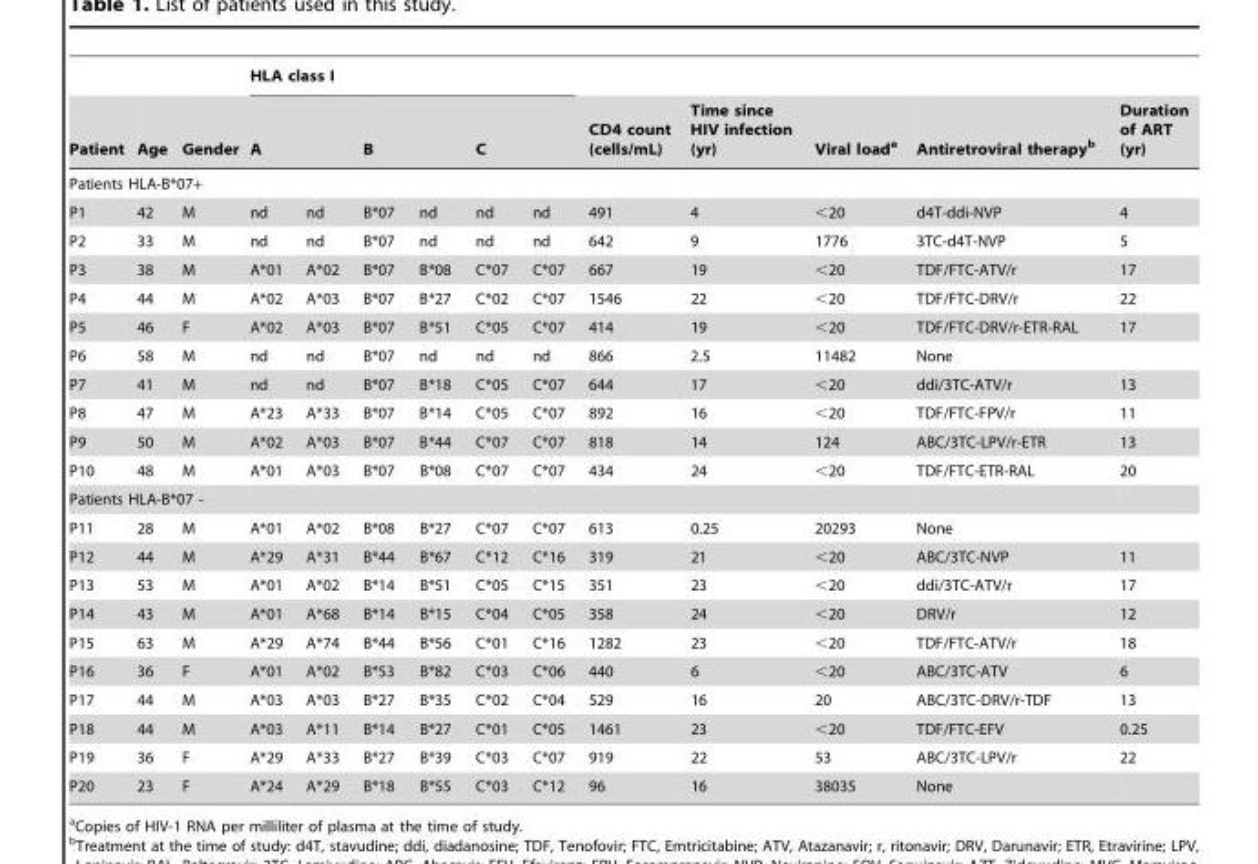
<table><thead><tr><td rowspan="2">Patient</td><td rowspan="2">Age</td><td rowspan="2">Gender</td><td colspan="6">HLA class I</td><td rowspan="3">CD4 count (cells/mL)</td><td rowspan="3">Time since HIV infection (yr)</td><td rowspan="3">Viral load<sup>a</sup></td><td rowspan="3">Antiretroviral therapy<sup>b</sup></td><td rowspan="3">Duration of ART (yr)</td></tr><tr><td colspan="2">A</td><td colspan="2">B</td><td colspan="2">C</td></tr><tr><td colspan="3">Patients HLA-B*07+</td><td></td><td></td><td></td><td></td><td></td><td></td></tr></thead><tbody><tr><td>P1</td><td>42</td><td>M</td><td>nd</td><td>nd</td><td>B*07</td><td>nd</td><td>nd</td><td>nd</td><td>491</td><td>4</td><td>&lt;20</td><td>d4T-ddi-NVP</td><td>4</td></tr><tr><td>P2</td><td>33</td><td>M</td><td>nd</td><td>nd</td><td>B*07</td><td>nd</td><td>nd</td><td>nd</td><td>642</td><td>9</td><td>1776</td><td>3TC-d4T-NVP</td><td>5</td></tr><tr><td>P3</td><td>38</td><td>M</td><td>A*01</td><td>A*02</td><td>B*07</td><td>B*08</td><td>C*07</td><td>C*07</td><td>667</td><td>19</td><td>&lt;20</td><td>TDF/FTC-ATV/r</td><td>17</td></tr><tr><td>P4</td><td>44</td><td>M</td><td>A*02</td><td>A*03</td><td>B*07</td><td>B*27</td><td>C*02</td><td>C*07</td><td>1546</td><td>22</td><td>&lt;20</td><td>TDF/FTC-DRV/r</td><td>22</td></tr><tr><td>P5</td><td>46</td><td>F</td><td>A*02</td><td>A*03</td><td>B*07</td><td>B*51</td><td>C*05</td><td>C*07</td><td>414</td><td>19</td><td>&lt;20</td><td>TDF/FTC-DRV/r-ETR-RAL</td><td>17</td></tr><tr><td>P6</td><td>58</td><td>M</td><td>nd</td><td>nd</td><td>B*07</td><td>nd</td><td>nd</td><td>nd</td><td>866</td><td>2.5</td><td>11482</td><td>None</td><td></td></tr><tr><td>P7</td><td>41</td><td>M</td><td>nd</td><td>nd</td><td>B*07</td><td>B*18</td><td>C*05</td><td>C*07</td><td>644</td><td>17</td><td>&lt;20</td><td>ddi/3TC-ATV/r</td><td>13</td></tr><tr><td>P8</td><td>47</td><td>M</td><td>A*23</td><td>A*33</td><td>B*07</td><td>B*14</td><td>C*05</td><td>C*07</td><td>892</td><td>16</td><td>&lt;20</td><td>TDF/FTC-FPV/r</td><td>11</td></tr><tr><td>P9</td><td>50</td><td>M</td><td>A*02</td><td>A*03</td><td>B*07</td><td>B*44</td><td>C*07</td><td>C*07</td><td>818</td><td>14</td><td>124</td><td>ABC/3TC-LPV/r-ETR</td><td>13</td></tr><tr><td>P10</td><td>48</td><td>M</td><td>A*01</td><td>A*03</td><td>B*07</td><td>B*08</td><td>C*07</td><td>C*07</td><td>434</td><td>24</td><td>&lt;20</td><td>TDF/FTC-ETR-RAL</td><td>20</td></tr><tr><td colspan="14">Patients HLA-B*07 -</td></tr><tr><td>P11</td><td>28</td><td>M</td><td>A*01</td><td>A*02</td><td>B*08</td><td>B*27</td><td>C*07</td><td>C*07</td><td>613</td><td>0.25</td><td>20293</td><td>None</td><td></td></tr><tr><td>P12</td><td>44</td><td>M</td><td>A*29</td><td>A*31</td><td>B*44</td><td>B*67</td><td>C*12</td><td>C*16</td><td>319</td><td>21</td><td>&lt;20</td><td>ABC/3TC-NVP</td><td>11</td></tr><tr><td>P13</td><td>53</td><td>M</td><td>A*01</td><td>A*02</td><td>B*14</td><td>B*51</td><td>C*05</td><td>C*15</td><td>351</td><td>23</td><td>&lt;20</td><td>ddi/3TC-ATV/r</td><td>17</td></tr><tr><td>P14</td><td>43</td><td>M</td><td>A*01</td><td>A*68</td><td>B*14</td><td>B*15</td><td>C*04</td><td>C*05</td><td>358</td><td>24</td><td>&lt;20</td><td>DRV/r</td><td>12</td></tr><tr><td>P15</td><td>63</td><td>M</td><td>A*29</td><td>A*74</td><td>B*44</td><td>B*56</td><td>C*01</td><td>C*16</td><td>1282</td><td>23</td><td>&lt;20</td><td>TDF/FTC-ATV/r</td><td>18</td></tr><tr><td>P16</td><td>36</td><td>F</td><td>A*01</td><td>A*02</td><td>B*53</td><td>B*82</td><td>C*03</td><td>C*06</td><td>440</td><td>6</td><td>&lt;20</td><td>ABC/3TC-ATV</td><td>6</td></tr><tr><td>P17</td><td>44</td><td>M</td><td>A*03</td><td>A*03</td><td>B*27</td><td>B*35</td><td>C*02</td><td>C*04</td><td>529</td><td>16</td><td>20</td><td>ABC/3TC-DRV/r-TDF</td><td>13</td></tr><tr><td>P18</td><td>44</td><td>M</td><td>A*03</td><td>A*11</td><td>B*14</td><td>B*27</td><td>C*01</td><td>C*05</td><td>1461</td><td>23</td><td>&lt;20</td><td>TDF/FTC-EFV</td><td>0.25</td></tr><tr><td>P19</td><td>36</td><td>F</td><td>A*29</td><td>A*33</td><td>B*27</td><td>B*39</td><td>C*03</td><td>C*07</td><td>919</td><td>22</td><td>53</td><td>ABC/3TC-LPV/r</td><td>22</td></tr><tr><td>P20</td><td>23</td><td>F</td><td>A*24</td><td>A*29</td><td>B*18</td><td>B*55</td><td>C*03</td><td>C*12</td><td>96</td><td>16</td><td>38035</td><td>None</td><td></td></tr></tbody></table>